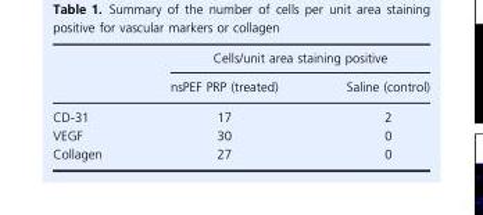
<table><thead><tr><td rowspan="2"></td><td colspan="2">Cells/unit area staining positive</td></tr><tr><td>nsPEF PRP (treated)</td><td>Saline (control)</td></tr></thead><tbody><tr><td>CD-31</td><td>17</td><td>2</td></tr><tr><td>VEGF</td><td>30</td><td>0</td></tr><tr><td>Collagen</td><td>27</td><td>0</td></tr></tbody></table>